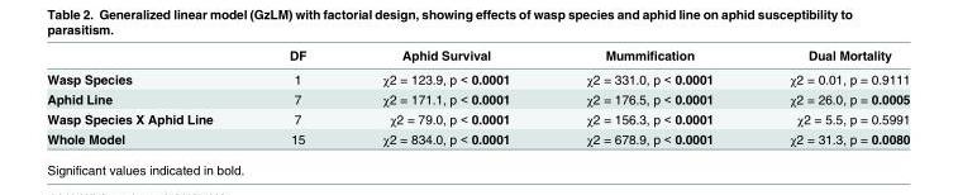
<table><thead><tr><td></td><td>DF</td><td>Aphid Survival</td><td>Mummification</td><td>Dual Mortality</td></tr></thead><tbody><tr><td>Wasp Species</td><td>1</td><td>χ2 = 123.9, p &lt; 0.0001</td><td>χ2 = 331.0, p &lt; 0.0001</td><td>χ2 = 0.01, p = 0.9111</td></tr><tr><td>Aphid Line</td><td>7</td><td>χ2 = 171.1, p &lt; 0.0001</td><td>χ2 = 176.5, p &lt; 0.0001</td><td>χ2 = 26.0, p = 0.0005</td></tr><tr><td>Wasp Species X Aphid Line</td><td>7</td><td>χ2 = 79.0, p &lt; 0.0001</td><td>χ2 = 156.3, p &lt; 0.0001</td><td>χ2 = 5.5, p = 0.5991</td></tr><tr><td>Whole Model</td><td>15</td><td>χ2 = 834.0, p &lt; 0.0001</td><td>χ2 = 678.9, p &lt; 0.0001</td><td>χ2 = 31.3, p = 0.0080</td></tr></tbody></table>